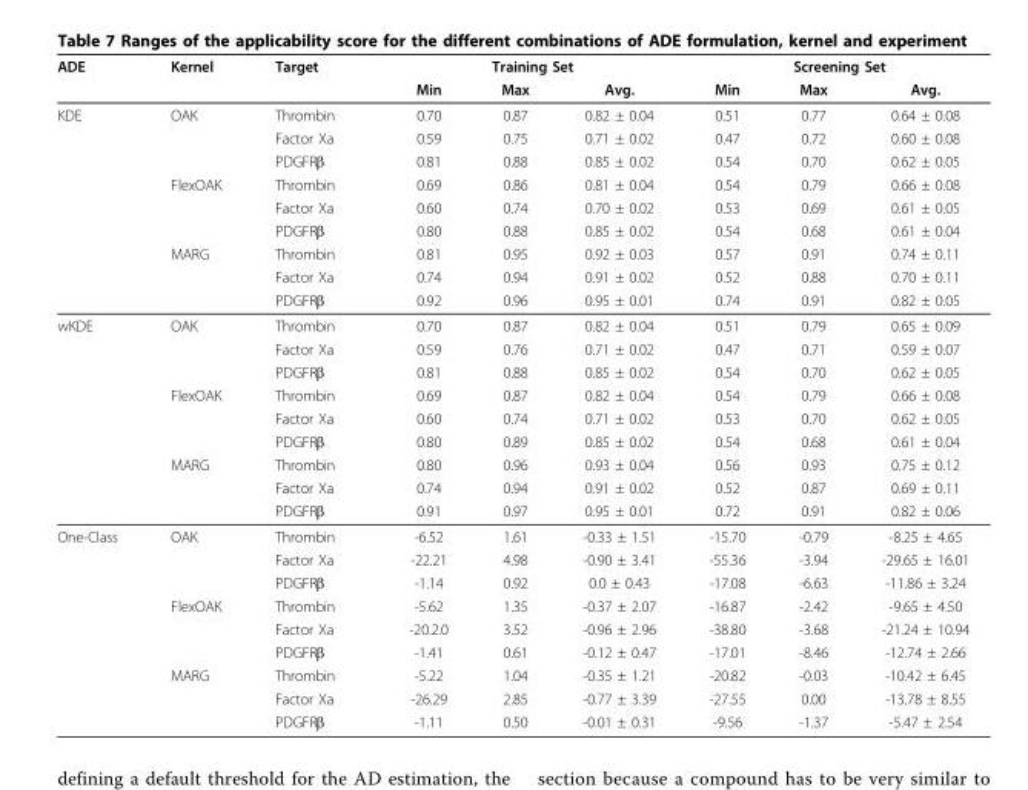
<table><thead><tr><td rowspan="2">ADE</td><td rowspan="2">Kernel</td><td rowspan="2">Target</td><td colspan="3">Training Set</td><td colspan="3">Screening Set</td></tr><tr><td>Min</td><td>Max</td><td>Avg.</td><td>Min</td><td>Max</td><td>Avg.</td></tr></thead><tbody><tr><td rowspan="9">KDE</td><td>OAK</td><td>Thrombin</td><td>0.70</td><td>0.87</td><td>0.82 ± 0.04</td><td>0.51</td><td>0.77</td><td>0.64 ± 0.08</td></tr><tr><td></td><td>Factor Xa</td><td>0.59</td><td>0.75</td><td>0.71 ± 0.02</td><td>0.47</td><td>0.72</td><td>0.60 ± 0.08</td></tr><tr><td></td><td>PDGFRβ</td><td>0.81</td><td>0.88</td><td>0.85 ± 0.02</td><td>0.54</td><td>0.70</td><td>0.62 ± 0.05</td></tr><tr><td>FlexOAK</td><td>Thrombin</td><td>0.69</td><td>0.86</td><td>0.81 ± 0.04</td><td>0.54</td><td>0.79</td><td>0.66 ± 0.08</td></tr><tr><td></td><td>Factor Xa</td><td>0.60</td><td>0.74</td><td>0.70 ± 0.02</td><td>0.53</td><td>0.69</td><td>0.61 ± 0.05</td></tr><tr><td></td><td>PDGFRβ</td><td>0.80</td><td>0.88</td><td>0.85 ± 0.02</td><td>0.54</td><td>0.68</td><td>0.61 ± 0.04</td></tr><tr><td>MARG</td><td>Thrombin</td><td>0.81</td><td>0.95</td><td>0.92 ± 0.03</td><td>0.57</td><td>0.91</td><td>0.74 ± 0.11</td></tr><tr><td></td><td>Factor Xa</td><td>0.74</td><td>0.94</td><td>0.91 ± 0.02</td><td>0.52</td><td>0.88</td><td>0.70 ± 0.11</td></tr><tr><td></td><td>PDGFRβ</td><td>0.92</td><td>0.96</td><td>0.95 ± 0.01</td><td>0.74</td><td>0.91</td><td>0.82 ± 0.05</td></tr><tr><td rowspan="9">wKDE</td><td>OAK</td><td>Thrombin</td><td>0.70</td><td>0.87</td><td>0.82 ± 0.04</td><td>0.51</td><td>0.79</td><td>0.65 ± 0.09</td></tr><tr><td></td><td>Factor Xa</td><td>0.59</td><td>0.76</td><td>0.71 ± 0.02</td><td>0.47</td><td>0.71</td><td>0.59 ± 0.07</td></tr><tr><td></td><td>PDGFRβ</td><td>0.81</td><td>0.88</td><td>0.85 ± 0.02</td><td>0.54</td><td>0.70</td><td>0.62 ± 0.05</td></tr><tr><td>FlexOAK</td><td>Thrombin</td><td>0.69</td><td>0.87</td><td>0.82 ± 0.04</td><td>0.54</td><td>0.79</td><td>0.66 ± 0.08</td></tr><tr><td></td><td>Factor Xa</td><td>0.60</td><td>0.74</td><td>0.71 ± 0.02</td><td>0.53</td><td>0.70</td><td>0.62 ± 0.05</td></tr><tr><td></td><td>PDGFRβ</td><td>0.80</td><td>0.89</td><td>0.85 ± 0.02</td><td>0.54</td><td>0.68</td><td>0.61 ± 0.04</td></tr><tr><td>MARG</td><td>Thrombin</td><td>0.80</td><td>0.96</td><td>0.93 ± 0.04</td><td>0.56</td><td>0.93</td><td>0.75 ± 0.12</td></tr><tr><td></td><td>Factor Xa</td><td>0.74</td><td>0.94</td><td>0.91 ± 0.02</td><td>0.52</td><td>0.87</td><td>0.69 ± 0.11</td></tr><tr><td></td><td>PDGFRβ</td><td>0.91</td><td>0.97</td><td>0.95 ± 0.01</td><td>0.72</td><td>0.91</td><td>0.82 ± 0.06</td></tr><tr><td rowspan="9">One-Class</td><td>OAK</td><td>Thrombin</td><td>-6.52</td><td>1.61</td><td>-0.33 ± 1.51</td><td>-15.70</td><td>-0.79</td><td>-8.25 ± 4.65</td></tr><tr><td></td><td>Factor Xa</td><td>-22.21</td><td>4.98</td><td>-0.90 ± 3.41</td><td>-55.36</td><td>-3.94</td><td>-29.65 ± 16.01</td></tr><tr><td></td><td>PDGFRβ</td><td>-1.14</td><td>0.92</td><td>0.0 ± 0.43</td><td>-17.08</td><td>-6.63</td><td>-11.86 ± 3.24</td></tr><tr><td>FlexOAK</td><td>Thrombin</td><td>-5.62</td><td>1.35</td><td>-0.37 ± 2.07</td><td>-16.87</td><td>-2.42</td><td>-9.65 ± 4.50</td></tr><tr><td></td><td>Factor Xa</td><td>-20.2.0</td><td>3.52</td><td>-0.96 ± 2.96</td><td>-38.80</td><td>-3.68</td><td>-21.24 ± 10.94</td></tr><tr><td></td><td>PDGFRβ</td><td>-1.41</td><td>0.61</td><td>-0.12 ± 0.47</td><td>-17.01</td><td>-8.46</td><td>-12.74 ± 2.66</td></tr><tr><td>MARG</td><td>Thrombin</td><td>-5.22</td><td>1.04</td><td>-0.35 ± 1.21</td><td>-20.82</td><td>-0.03</td><td>-10.42 ± 6.45</td></tr><tr><td></td><td>Factor Xa</td><td>-26.29</td><td>2.85</td><td>-0.77 ± 3.39</td><td>-27.55</td><td>0.00</td><td>-13.78 ± 8.55</td></tr><tr><td></td><td>PDGFRβ</td><td>-1.11</td><td>0.50</td><td>-0.01 ± 0.31</td><td>-9.56</td><td>-1.37</td><td>-5.47 ± 2.54</td></tr></tbody></table>